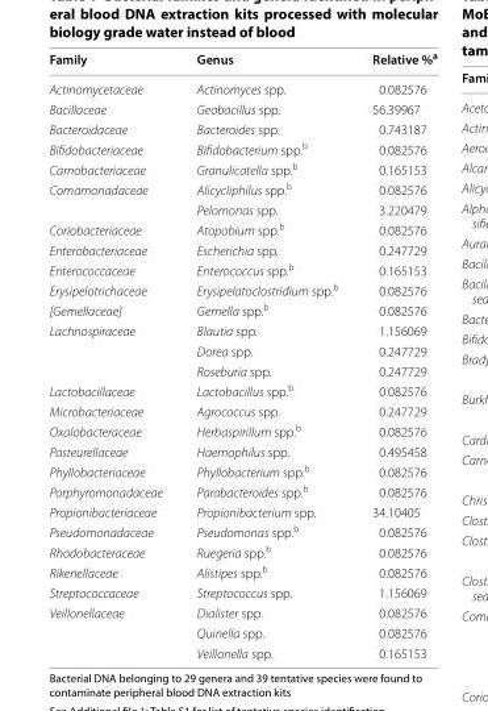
<table><thead><tr><td>Family</td><td>Genus</td><td>Relative %<sup>a</sup></td></tr></thead><tbody><tr><td>Actinomycetaceae</td><td>Actinomyces spp.</td><td>0.082576</td></tr><tr><td>Bacillaceae</td><td>Geobacillus spp.</td><td>56.39967</td></tr><tr><td>Bacteroidaceae</td><td>Bacteroides spp.</td><td>0.743187</td></tr><tr><td>Bifidobacteriaceae</td><td>Bifidobacterium spp.<sup>b</sup></td><td>0.082576</td></tr><tr><td>Carnobacteriaceae</td><td>Granulicatella spp.<sup>b</sup></td><td>0.165153</td></tr><tr><td rowspan="2">Comamonadaceae</td><td>Alicycliphilus spp.<sup>b</sup></td><td>0.082576</td></tr><tr><td>Pelomonas spp.</td><td>3.220479</td></tr><tr><td>Coriobacteriaceae</td><td>Atopobium spp.<sup>b</sup></td><td>0.082576</td></tr><tr><td>Enterobacteriaceae</td><td>Escherichia spp.</td><td>0.247729</td></tr><tr><td>Enterococcaceae</td><td>Enterococcus spp.<sup>b</sup></td><td>0.165153</td></tr><tr><td>Erysipelotrichaceae</td><td>Erysipelatoclostridium spp.<sup>b</sup></td><td>0.082576</td></tr><tr><td>[Gemellaceae]</td><td>Gemella spp.<sup>b</sup></td><td>0.082576</td></tr><tr><td rowspan="3">Lachnospiraceae</td><td>Blautia spp.</td><td>1.156069</td></tr><tr><td>Dorea spp.</td><td>0.247729</td></tr><tr><td>Roseburia spp.</td><td>0.247729</td></tr><tr><td>Lactobacillaceae</td><td>Lactobacillus spp.<sup>b</sup></td><td>0.082576</td></tr><tr><td>Microbacteriaceae</td><td>Agrococcus spp.</td><td>0.247729</td></tr><tr><td>Oxalobacteraceae</td><td>Herbaspirillum spp.<sup>b</sup></td><td>0.082576</td></tr><tr><td>Pasteurellaceae</td><td>Haemophilus spp.</td><td>0.495458</td></tr><tr><td>Phyllobacteriaceae</td><td>Phyllobacterium spp.<sup>b</sup></td><td>0.082576</td></tr><tr><td>Porphyromonadaceae</td><td>Parabacteroides spp.<sup>b</sup></td><td>0.082576</td></tr><tr><td>Propionibacteriaceae</td><td>Propionibacterium spp.</td><td>34.10405</td></tr><tr><td>Pseudomonadaceae</td><td>Pseudomonas spp.<sup>b</sup></td><td>0.082576</td></tr><tr><td>Rhodobacteraceae</td><td>Ruegeria spp.<sup>b</sup></td><td>0.082576</td></tr><tr><td>Rikenellaceae</td><td>Alistipes spp.<sup>b</sup></td><td>0.082576</td></tr><tr><td>Streptococcaceae</td><td>Streptococcus spp.</td><td>1.156069</td></tr><tr><td rowspan="3">Veillonellaceae</td><td>Dialister spp.</td><td>0.082576</td></tr><tr><td>Quinella spp.</td><td>0.082576</td></tr><tr><td>Veillonella spp.</td><td>0.165153</td></tr></tbody></table>